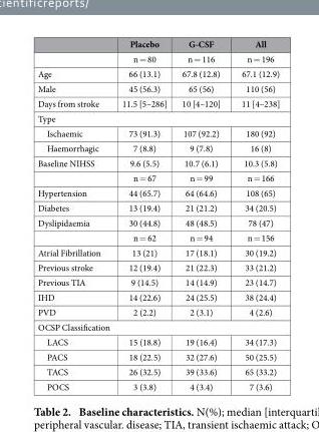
<table><thead><tr><td></td><td>Placebo</td><td>G-CSF</td><td>All</td></tr></thead><tbody><tr><td></td><td>n = 80</td><td>n = 116</td><td>n = 196</td></tr><tr><td>Age</td><td>66 (13.1)</td><td>67.8 (12.8)</td><td>67.1 (12.9)</td></tr><tr><td>Male</td><td>45 (56.3)</td><td>65 (56)</td><td>110 (56)</td></tr><tr><td>Days from stroke</td><td>11.5 [5–286]</td><td>10 [4–120]</td><td>11 [4–238]</td></tr><tr><td colspan="4">Type</td></tr><tr><td>Ischaemic</td><td>73 (91.3)</td><td>107 (92.2)</td><td>180 (92)</td></tr><tr><td>Haemorrhagic</td><td>7 (8.8)</td><td>9 (7.8)</td><td>16 (8)</td></tr><tr><td rowspan="2">Baseline NIHSS</td><td>9.6 (5.5)</td><td>10.7 (6.1)</td><td>10.3 (5.8)</td></tr><tr><td>n = 67</td><td>n = 99</td><td>n = 166</td></tr><tr><td>Hypertension</td><td>44 (65.7)</td><td>64 (64.6)</td><td>108 (65)</td></tr><tr><td>Diabetes</td><td>13 (19.4)</td><td>21 (21.2)</td><td>34 (20.5)</td></tr><tr><td rowspan="2">Dyslipidaemia</td><td>30 (44.8)</td><td>48 (48.5)</td><td>78 (47)</td></tr><tr><td>n = 62</td><td>n = 94</td><td>n = 156</td></tr><tr><td>Atrial Fibrillation</td><td>13 (21)</td><td>17 (18.1)</td><td>30 (19.2)</td></tr><tr><td>Previous stroke</td><td>12 (19.4)</td><td>21 (22.3)</td><td>33 (21.2)</td></tr><tr><td>Previous TIA</td><td>9 (14.5)</td><td>14 (14.9)</td><td>23 (14.7)</td></tr><tr><td>IHD</td><td>14 (22.6)</td><td>24 (25.5)</td><td>38 (24.4)</td></tr><tr><td>PVD</td><td>2 (2.2)</td><td>2 (3.1)</td><td>4 (2.6)</td></tr><tr><td colspan="4">OCSP Classification</td></tr><tr><td>LACS</td><td>15 (18.8)</td><td>19 (16.4)</td><td>34 (17.3)</td></tr><tr><td>PACS</td><td>18 (22.5)</td><td>32 (27.6)</td><td>50 (25.5)</td></tr><tr><td>TACS</td><td>26 (32.5)</td><td>39 (33.6)</td><td>65 (33.2)</td></tr><tr><td>POCS</td><td>3 (3.8)</td><td>4 (3.4)</td><td>7 (3.6)</td></tr></tbody></table>